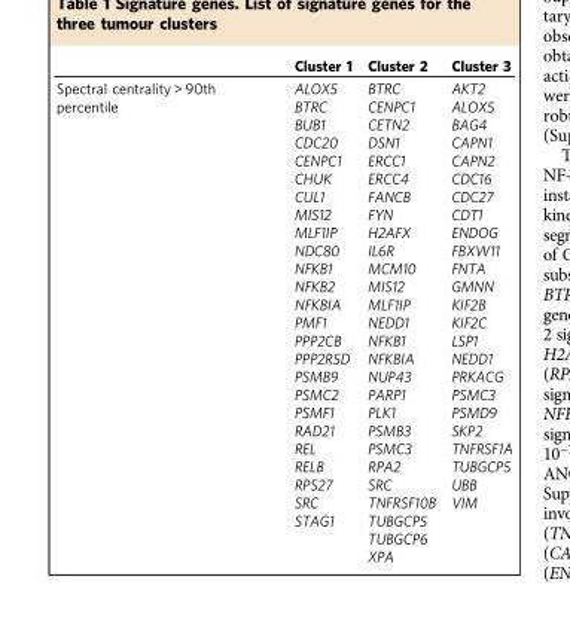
<table><thead><tr><td></td><td>Cluster 1</td><td>Cluster 2</td><td>Cluster 3</td></tr></thead><tbody><tr><td>Spectral centrality &gt; 90th percentile</td><td>ALOX5 BTRC BUB1 CDC20 CENPC1 CHUK CUL1 MIS12 MLF1IP NDC80 NFKB1 NFKB2 NFKBIA PMF1 PPP2CB PPP2R5D PSMB9 PSMC2 PSMF1 RAD21 REL RELB RPS27 SRC STAG1</td><td>BTRC CENPC1 CETN2 DSN1 ERCC1 ERCC4 FANCB FYN H2AFX IL6R MCM10 MIS12 MLF1IP NEDD1 NFKB1 NFKBIA NUP43 PARP1 PLK1 PSMB3 PSMC3 RPA2 SRC TNFRSF10B TUBGCP5 TUBGCP6 XPA</td><td>AKT2 ALOX5 BAG4 CAPN1 CAPN2 CDC16 CDC27 CDT1 ENDOG FBXW11 FNTA GMNN KIF2B KIF2C LSP1 NEDD1 PRKACG PSMC3 PSMD9 SKP2 TNFRSF1A TUBGCP5 UBB VIM</td></tr></tbody></table>